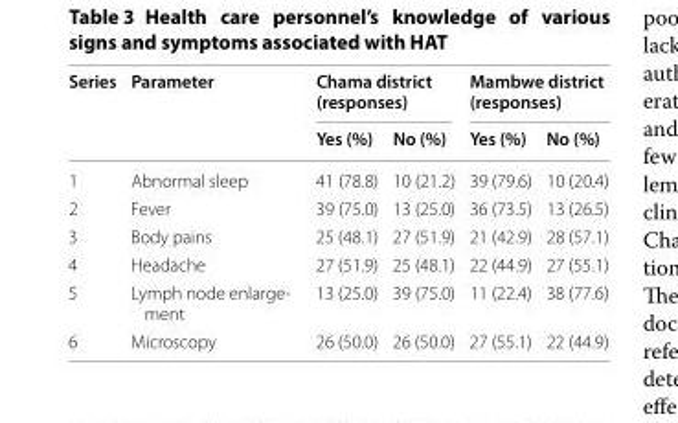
<table><thead><tr><td rowspan="2">Series</td><td rowspan="2">Parameter</td><td colspan="2">Chama district (responses)</td><td colspan="2">Mambwe district (responses)</td></tr><tr><td>Yes (%)</td><td>No (%)</td><td>Yes (%)</td><td>No (%)</td></tr></thead><tbody><tr><td>1</td><td>Abnormal sleep</td><td>41 (78.8)</td><td>10 (21.2)</td><td>39 (79.6)</td><td>10 (20.4)</td></tr><tr><td>2</td><td>Fever</td><td>39 (75.0)</td><td>13 (25.0)</td><td>36 (73.5)</td><td>13 (26.5)</td></tr><tr><td>3</td><td>Body pains</td><td>25 (48.1)</td><td>27 (51.9)</td><td>21 (42.9)</td><td>28 (57.1)</td></tr><tr><td>4</td><td>Headache</td><td>27 (51.9)</td><td>25 (48.1)</td><td>22 (44.9)</td><td>27 (55.1)</td></tr><tr><td>5</td><td>Lymph node enlarge- ment</td><td>13 (25.0)</td><td>39 (75.0)</td><td>11 (22.4)</td><td>38 (77.6)</td></tr><tr><td>6</td><td>Microscopy</td><td>26 (50.0)</td><td>26 (50.0)</td><td>27 (55.1)</td><td>22 (44.9)</td></tr></tbody></table>